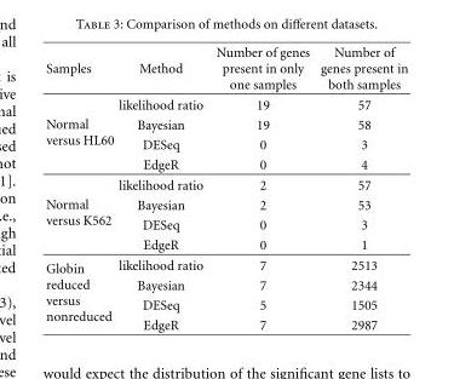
<table><thead><tr><td>Samples</td><td>Method</td><td>Number of genes present in only one samples</td><td>Number of genes present in both samples</td></tr></thead><tbody><tr><td rowspan="4">Normal versus HL60</td><td>likelihood ratio</td><td>19</td><td>57</td></tr><tr><td>Bayesian</td><td>19</td><td>58</td></tr><tr><td>DESeq</td><td>0</td><td>3</td></tr><tr><td>EdgeR</td><td>0</td><td>4</td></tr><tr><td rowspan="4">Normal versus K562</td><td>likelihood ratio</td><td>2</td><td>57</td></tr><tr><td>Bayesian</td><td>2</td><td>53</td></tr><tr><td>DESeq</td><td>0</td><td>3</td></tr><tr><td>EdgeR</td><td>0</td><td>1</td></tr><tr><td rowspan="4">Globin reduced versus nonreduced</td><td>likelihood ratio</td><td>7</td><td>2513</td></tr><tr><td>Bayesian</td><td>7</td><td>2344</td></tr><tr><td>DESeq</td><td>5</td><td>1505</td></tr><tr><td>EdgeR</td><td>7</td><td>2987</td></tr></tbody></table>